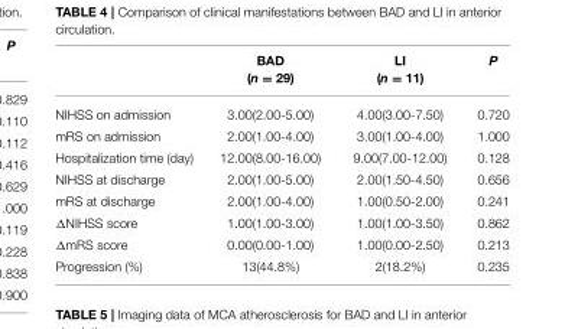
<table><thead><tr><td></td><td>BAD (n = 29)</td><td>LI (n = 11)</td><td>P</td></tr></thead><tbody><tr><td>NIHSS on admission</td><td>3.00(2.00-5.00)</td><td>4.00(3.00-7.50)</td><td>0.720</td></tr><tr><td>mRS on admission</td><td>2.00(1.00-4.00)</td><td>3.00(1.00-4.00)</td><td>1.000</td></tr><tr><td>Hospitalization time (day)</td><td>12.00(8.00-16.00)</td><td>9.00(7.00-12.00)</td><td>0.128</td></tr><tr><td>NIHSS at discharge</td><td>2.00(1.00-5.00)</td><td>2.00(1.50-4.50)</td><td>0.656</td></tr><tr><td>mRS at discharge</td><td>2.00(1.00-4.00)</td><td>1.00(0.50-2.00)</td><td>0.241</td></tr><tr><td>ΔNIHSS score</td><td>1.00(1.00-3.00)</td><td>1.00(1.00-3.50)</td><td>0.862</td></tr><tr><td>ΔmRS score</td><td>0.00(0.00-1.00)</td><td>1.00(0.00-2.50)</td><td>0.213</td></tr><tr><td>Progression (%)</td><td>13(44.8%)</td><td>2(18.2%)</td><td>0.235</td></tr></tbody></table>